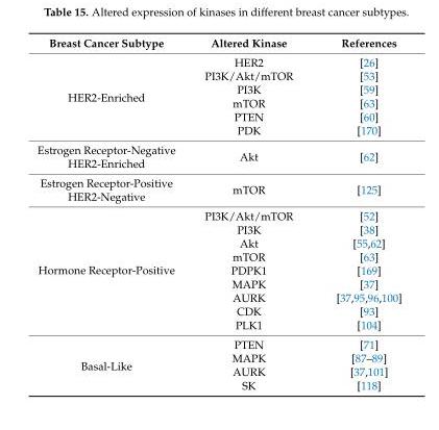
<table><thead><tr><td>Breast Cancer Subtype</td><td>Altered Kinase</td><td>References</td></tr></thead><tbody><tr><td rowspan="6">HER2-Enriched</td><td>HER2</td><td>[26]</td></tr><tr><td>PI3K/Akt/mTOR</td><td>[53]</td></tr><tr><td>PI3K</td><td>[59]</td></tr><tr><td>mTOR</td><td>[63]</td></tr><tr><td>PTEN</td><td>[60]</td></tr><tr><td>PDK</td><td>[170]</td></tr><tr><td>Estrogen Receptor-Negative HER2-Enriched</td><td>Akt</td><td>[62]</td></tr><tr><td>Estrogen Receptor-Positive HER2-Negative</td><td>mTOR</td><td>[125]</td></tr><tr><td rowspan="9">Hormone Receptor-Positive</td><td>PI3K/Akt/mTOR</td><td>[52]</td></tr><tr><td>PI3K</td><td>[38]</td></tr><tr><td>Akt</td><td>[55,62]</td></tr><tr><td>mTOR</td><td>[63]</td></tr><tr><td>PDPK1</td><td>[169]</td></tr><tr><td>MAPK</td><td>[37]</td></tr><tr><td>AURK</td><td>[37,95,96,100]</td></tr><tr><td>CDK</td><td>[93]</td></tr><tr><td>PLK1</td><td>[104]</td></tr><tr><td rowspan="4">Basal-Like</td><td>PTEN</td><td>[71]</td></tr><tr><td>MAPK</td><td>[87–89]</td></tr><tr><td>AURK</td><td>[37,101]</td></tr><tr><td>SK</td><td>[118]</td></tr></tbody></table>